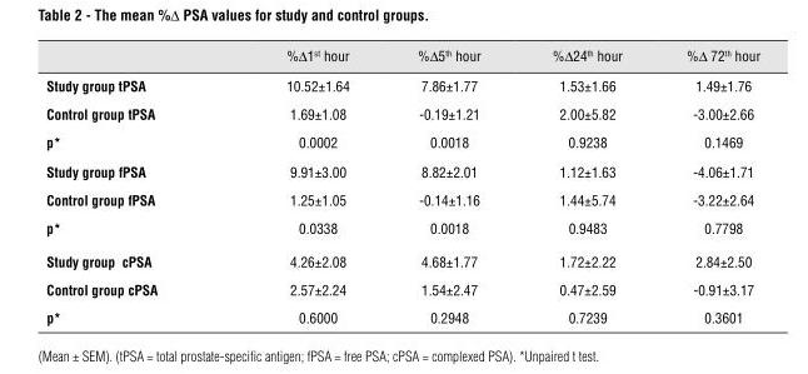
<table><thead><tr><td></td><td>%∆1<sup>st</sup> hour</td><td>%∆5<sup>th</sup> hour</td><td>%∆24<sup>th</sup> hour</td><td>%∆ 72<sup>th</sup> hour</td></tr></thead><tbody><tr><td>study group tpsA</td><td>10.52±1.64</td><td>7.86±1.77</td><td>1.53±1.66</td><td>1.49±1.76</td></tr><tr><td>Control group tpsA</td><td>1.69±1.08</td><td>-0.19±1.21</td><td>2.00±5.82</td><td>-3.00±2.66</td></tr><tr><td>p*</td><td>0.0002</td><td>0.0018</td><td>0.9238</td><td>0.1469</td></tr><tr><td>study group fpsA</td><td>9.91±3.00</td><td>8.82±2.01</td><td>1.12±1.63</td><td>-4.06±1.71</td></tr><tr><td>Control group fpsA</td><td>1.25±1.05</td><td>-0.14±1.16</td><td>1.44±5.74</td><td>-3.22±2.64</td></tr><tr><td>p*</td><td>0.0338</td><td>0.0018</td><td>0.9483</td><td>0.7798</td></tr><tr><td>study group cpsA</td><td>4.26±2.08</td><td>4.68±1.77</td><td>1.72±2.22</td><td>2.84±2.50</td></tr><tr><td>Control group cpsA</td><td>2.57±2.24</td><td>1.54±2.47</td><td>0.47±2.59</td><td>-0.91±3.17</td></tr><tr><td>p*</td><td>0.6000</td><td>0.2948</td><td>0.7239</td><td>0.3601</td></tr></tbody></table>